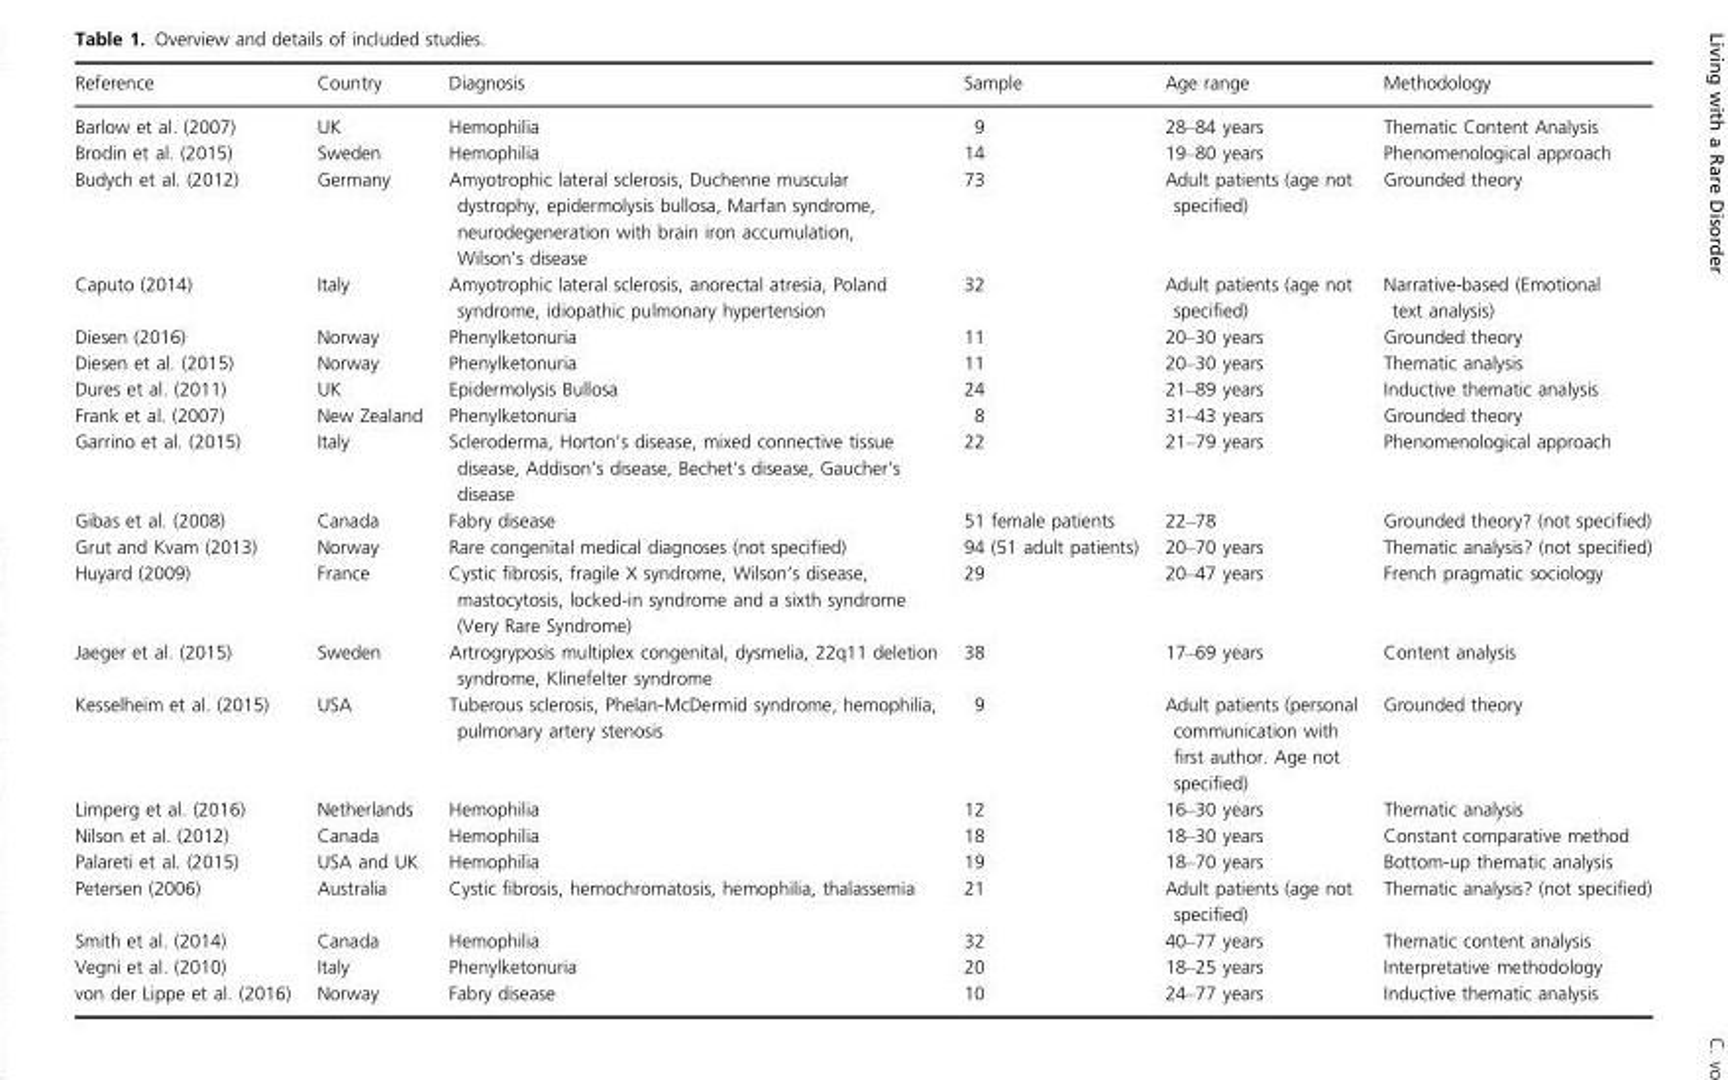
<table><thead><tr><td>Reference</td><td>Country</td><td>Diagnosis</td><td>Sample</td><td>Age range</td><td>Methodology</td></tr></thead><tbody><tr><td>Barlow et al. (2007)</td><td>UK</td><td>Hemophilia</td><td>9</td><td>28–84 years</td><td>Thematic Content Analysis</td></tr><tr><td>Brodin et al. (2015)</td><td>Sweden</td><td>Hemophilia</td><td>14</td><td>19–80 years</td><td>Phenomenological approach</td></tr><tr><td>Budych et al. (2012)</td><td>Germany</td><td>Amyotrophic lateral sclerosis, Duchenne muscular dystrophy, epidermolysis bullosa, Marfan syndrome, neurodegeneration with brain iron accumulation, Wilson’s disease</td><td>73</td><td>Adult patients (age not specified)</td><td>Grounded theory</td></tr><tr><td>Caputo (2014)</td><td>Italy</td><td>Amyotrophic lateral sclerosis, anorectal atresia, Poland syndrome, idiopathic pulmonary hypertension</td><td>32</td><td>Adult patients (age not specified)</td><td>Narrative-based (Emotional text analysis)</td></tr><tr><td>Diesen (2016)</td><td>Norway</td><td>Phenylketonuria</td><td>11</td><td>20–30 years</td><td>Grounded theory</td></tr><tr><td>Diesen et al. (2015)</td><td>Norway</td><td>Phenylketonuria</td><td>11</td><td>20–30 years</td><td>Thematic analysis</td></tr><tr><td>Dures et al. (2011)</td><td>UK</td><td>Epidermolysis Bullosa</td><td>24</td><td>21–89 years</td><td>Inductive thematic analysis</td></tr><tr><td>Frank et al. (2007)</td><td>New Zealand</td><td>Phenylketonuria</td><td>8</td><td>31–43 years</td><td>Grounded theory</td></tr><tr><td>Garrino et al. (2015)</td><td>Italy</td><td>Scleroderma, Horton’s disease, mixed connective tissue disease, Addison’s disease, Bechet’s disease, Gaucher’s disease</td><td>22</td><td>21–79 years</td><td>Phenomenological approach</td></tr><tr><td>Gibas et al. (2008)</td><td>Canada</td><td>Fabry disease</td><td>51 female patients</td><td>22–78</td><td>Grounded theory? (not specified)</td></tr><tr><td>Grut and Kvam (2013)</td><td>Norway</td><td>Rare congenital medical diagnoses (not specified)</td><td>94 (51 adult patients)</td><td>20–70 years</td><td>Thematic analysis? (not specified)</td></tr><tr><td>Huyard (2009)</td><td>France</td><td>Cystic fibrosis, fragile X syndrome, Wilson’s disease, mastocytosis, locked-in syndrome and a sixth syndrome (Very Rare Syndrome)</td><td>29</td><td>20–47 years</td><td>French pragmatic sociology</td></tr><tr><td>Jaeger et al. (2015)</td><td>Sweden</td><td>Artrogryposis multiplex congenital, dysmelia, 22q11 deletion syndrome, Klinefelter syndrome</td><td>38</td><td>17–69 years</td><td>Content analysis</td></tr><tr><td>Kesselheim et al. (2015)</td><td>USA</td><td>Tuberous sclerosis, Phelan-McDermid syndrome, hemophilia, pulmonary artery stenosis</td><td>9</td><td>Adult patients (personal communication with first author. Age not specified)</td><td>Grounded theory</td></tr><tr><td>Limperg et al. (2016)</td><td>Netherlands</td><td>Hemophilia</td><td>12</td><td>16–30 years</td><td>Thematic analysis</td></tr><tr><td>Nilson et al. (2012)</td><td>Canada</td><td>Hemophilia</td><td>18</td><td>18–30 years</td><td>Constant comparative method</td></tr><tr><td>Palareti et al. (2015)</td><td>USA and UK</td><td>Hemophilia</td><td>19</td><td>18–70 years</td><td>Bottom-up thematic analysis</td></tr><tr><td>Petersen (2006)</td><td>Australia</td><td>Cystic fibrosis, hemochromatosis, hemophilia, thalassemia</td><td>21</td><td>Adult patients (age not specified)</td><td>Thematic analysis? (not specified)</td></tr><tr><td>Smith et al. (2014)</td><td>Canada</td><td>Hemophilia</td><td>32</td><td>40–77 years</td><td>Thematic content analysis</td></tr><tr><td>Vegni et al. (2010)</td><td>Italy</td><td>Phenylketonuria</td><td>20</td><td>18–25 years</td><td>Interpretative methodology</td></tr><tr><td>von der Lippe et al. (2016)</td><td>Norway</td><td>Fabry disease</td><td>10</td><td>24–77 years</td><td>Inductive thematic analysis</td></tr></tbody></table>